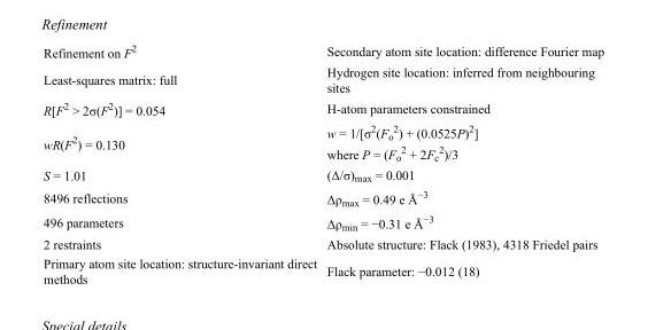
<table><tbody><tr><td>Refinement on F<sup>2</sup></td><td>Secondary atom site location: difference Fourier map</td></tr><tr><td>Least-squares matrix: full</td><td>Hydrogen site location: inferred from neighbouring sites</td></tr><tr><td>R[F<sup>2</sup> &gt; 2σ(F<sup>2</sup>)] = 0.054</td><td>H-atom parameters constrained</td></tr><tr><td>wR(F<sup>2</sup>) = 0.130</td><td>w = 1/[σ<sup>2</sup>(F<sub>o</sub> <sup>2</sup>) + (0.0525P)<sup>2</sup>] where P = (F<sub>o</sub> <sup>2</sup> + 2F<sub>c</sub> <sup>2</sup>)/3</td></tr><tr><td>S = 1.01</td><td>(Δ/σ)<sub>max</sub> = 0.001</td></tr><tr><td>8496 reflections</td><td>Δρ<sub>max</sub> = 0.49 e Å<sup>−3</sup></td></tr><tr><td>496 parameters</td><td>Δρ<sub>min</sub> = −0.31 e Å<sup>−3</sup></td></tr><tr><td>2 restraints</td><td>Absolute structure: Flack (1983), 4318 Friedel pairs</td></tr><tr><td>Primary atom site location: structure-invariant direct methods</td><td>Flack parameter: −0.012 (18)</td></tr></tbody></table>